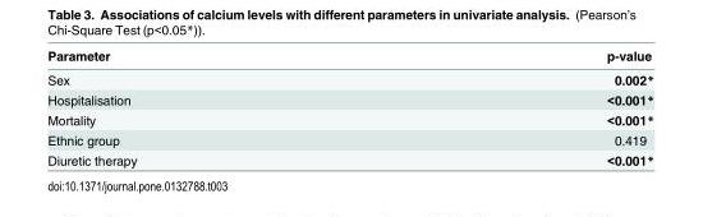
<table><thead><tr><td>Parameter</td><td>p-value</td></tr></thead><tbody><tr><td>Sex</td><td>0.002*</td></tr><tr><td>Hospitalisation</td><td>&lt;0.001*</td></tr><tr><td>Mortality</td><td>&lt;0.001*</td></tr><tr><td>Ethnic group</td><td>0.419</td></tr><tr><td>Diuretic therapy</td><td>&lt;0.001*</td></tr></tbody></table>